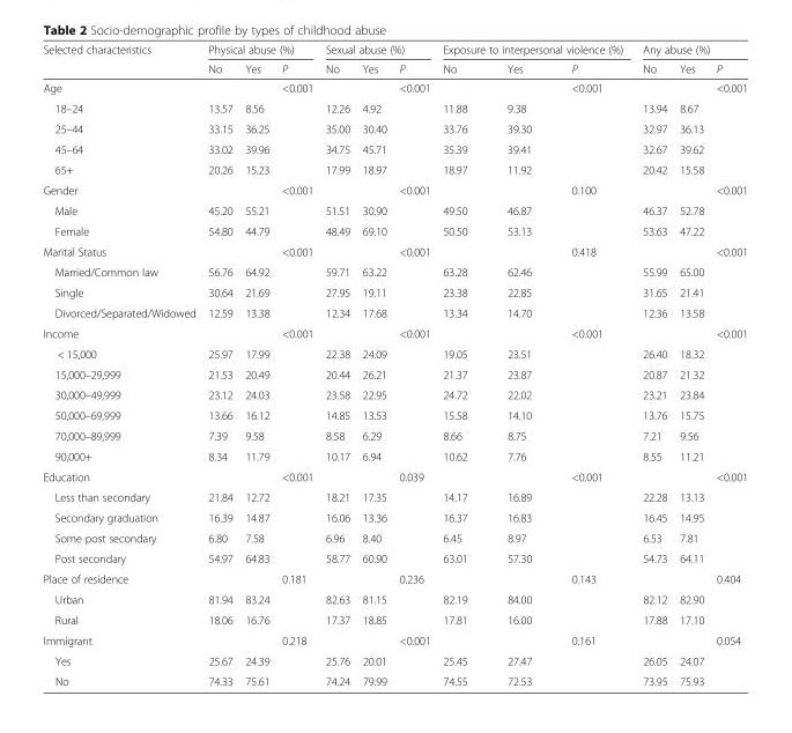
<table><thead><tr><td rowspan="2">Selected characteristics</td><td colspan="3">Physical abuse (%)</td><td colspan="3">Sexual abuse (%)</td><td colspan="3">Exposure to interpersonal violence (%)</td><td colspan="3">Any abuse (%)</td></tr><tr><td>No</td><td>Yes</td><td>P</td><td>No</td><td>Yes</td><td>P</td><td>No</td><td>Yes</td><td>P</td><td>No</td><td>Yes</td><td>P</td></tr></thead><tbody><tr><td>Age</td><td></td><td></td><td>&lt;0.001</td><td></td><td></td><td>&lt;0.001</td><td></td><td></td><td>&lt;0.001</td><td></td><td></td><td>&lt;0.001</td></tr><tr><td>18–24</td><td>13.57</td><td>8.56</td><td></td><td>12.26</td><td>4.92</td><td></td><td>11.88</td><td>9.38</td><td></td><td>13.94</td><td>8.67</td><td></td></tr><tr><td>25–44</td><td>33.15</td><td>36.25</td><td></td><td>35.00</td><td>30.40</td><td></td><td>33.76</td><td>39.30</td><td></td><td>32.97</td><td>36.13</td><td></td></tr><tr><td>45–64</td><td>33.02</td><td>39.96</td><td></td><td>34.75</td><td>45.71</td><td></td><td>35.39</td><td>39.41</td><td></td><td>32.67</td><td>39.62</td><td></td></tr><tr><td>65+</td><td>20.26</td><td>15.23</td><td></td><td>17.99</td><td>18.97</td><td></td><td>18.97</td><td>11.92</td><td></td><td>20.42</td><td>15.58</td><td></td></tr><tr><td>Gender</td><td></td><td></td><td>&lt;0.001</td><td></td><td></td><td>&lt;0.001</td><td></td><td></td><td>0.100</td><td></td><td></td><td>&lt;0.001</td></tr><tr><td>Male</td><td>45.20</td><td>55.21</td><td></td><td>51.51</td><td>30.90</td><td></td><td>49.50</td><td>46.87</td><td></td><td>46.37</td><td>52.78</td><td></td></tr><tr><td>Female</td><td>54.80</td><td>44.79</td><td></td><td>48.49</td><td>69.10</td><td></td><td>50.50</td><td>53.13</td><td></td><td>53.63</td><td>47.22</td><td></td></tr><tr><td>Marital Status</td><td></td><td></td><td>&lt;0.001</td><td></td><td></td><td>&lt;0.001</td><td></td><td></td><td>0.418</td><td></td><td></td><td>&lt;0.001</td></tr><tr><td>Married/Common law</td><td>56.76</td><td>64.92</td><td></td><td>59.71</td><td>63.22</td><td></td><td>63.28</td><td>62.46</td><td></td><td>55.99</td><td>65.00</td><td></td></tr><tr><td>Single</td><td>30.64</td><td>21.69</td><td></td><td>27.95</td><td>19.11</td><td></td><td>23.38</td><td>22.85</td><td></td><td>31.65</td><td>21.41</td><td></td></tr><tr><td>Divorced/Separated/Widowed</td><td>12.59</td><td>13.38</td><td></td><td>12.34</td><td>17.68</td><td></td><td>13.34</td><td>14.70</td><td></td><td>12.36</td><td>13.58</td><td></td></tr><tr><td>Income</td><td></td><td></td><td>&lt;0.001</td><td></td><td></td><td>&lt;0.001</td><td></td><td></td><td>&lt;0.001</td><td></td><td></td><td>&lt;0.001</td></tr><tr><td>&lt; 15,000</td><td>25.97</td><td>17.99</td><td></td><td>22.38</td><td>24.09</td><td></td><td>19.05</td><td>23.51</td><td></td><td>26.40</td><td>18.32</td><td></td></tr><tr><td>15,000–29,999</td><td>21.53</td><td>20.49</td><td></td><td>20.44</td><td>26.21</td><td></td><td>21.37</td><td>23.87</td><td></td><td>20.87</td><td>21.32</td><td></td></tr><tr><td>30,000–49,999</td><td>23.12</td><td>24.03</td><td></td><td>23.58</td><td>22.95</td><td></td><td>24.72</td><td>22.02</td><td></td><td>23.21</td><td>23.84</td><td></td></tr><tr><td>50,000–69,999</td><td>13.66</td><td>16.12</td><td></td><td>14.85</td><td>13.53</td><td></td><td>15.58</td><td>14.10</td><td></td><td>13.76</td><td>15.75</td><td></td></tr><tr><td>70,000–89,999</td><td>7.39</td><td>9.58</td><td></td><td>8.58</td><td>6.29</td><td></td><td>8.66</td><td>8.75</td><td></td><td>7.21</td><td>9.56</td><td></td></tr><tr><td>90,000+</td><td>8.34</td><td>11.79</td><td></td><td>10.17</td><td>6.94</td><td></td><td>10.62</td><td>7.76</td><td></td><td>8.55</td><td>11.21</td><td></td></tr><tr><td>Education</td><td></td><td></td><td>&lt;0.001</td><td></td><td></td><td>0.039</td><td></td><td></td><td>&lt;0.001</td><td></td><td></td><td>&lt;0.001</td></tr><tr><td>Less than secondary</td><td>21.84</td><td>12.72</td><td></td><td>18.21</td><td>17.35</td><td></td><td>14.17</td><td>16.89</td><td></td><td>22.28</td><td>13.13</td><td></td></tr><tr><td>Secondary graduation</td><td>16.39</td><td>14.87</td><td></td><td>16.06</td><td>13.36</td><td></td><td>16.37</td><td>16.83</td><td></td><td>16.45</td><td>14.95</td><td></td></tr><tr><td>Some post secondary</td><td>6.80</td><td>7.58</td><td></td><td>6.96</td><td>8.40</td><td></td><td>6.45</td><td>8.97</td><td></td><td>6.53</td><td>7.81</td><td></td></tr><tr><td>Post secondary</td><td>54.97</td><td>64.83</td><td></td><td>58.77</td><td>60.90</td><td></td><td>63.01</td><td>57.30</td><td></td><td>54.73</td><td>64.11</td><td></td></tr><tr><td>Place of residence</td><td></td><td></td><td>0.181</td><td></td><td></td><td>0.236</td><td></td><td></td><td>0.143</td><td></td><td></td><td>0.404</td></tr><tr><td>Urban</td><td>81.94</td><td>83.24</td><td></td><td>82.63</td><td>81.15</td><td></td><td>82.19</td><td>84.00</td><td></td><td>82.12</td><td>82.90</td><td></td></tr><tr><td>Rural</td><td>18.06</td><td>16.76</td><td></td><td>17.37</td><td>18.85</td><td></td><td>17.81</td><td>16.00</td><td></td><td>17.88</td><td>17.10</td><td></td></tr><tr><td>Immigrant</td><td></td><td></td><td>0.218</td><td></td><td></td><td>&lt;0.001</td><td></td><td></td><td>0.161</td><td></td><td></td><td>0.054</td></tr><tr><td>Yes</td><td>25.67</td><td>24.39</td><td></td><td>25.76</td><td>20.01</td><td></td><td>25.45</td><td>27.47</td><td></td><td>26.05</td><td>24.07</td><td></td></tr><tr><td>No</td><td>74.33</td><td>75.61</td><td></td><td>74.24</td><td>79.99</td><td></td><td>74.55</td><td>72.53</td><td></td><td>73.95</td><td colspan="2">75.93</td></tr></tbody></table>